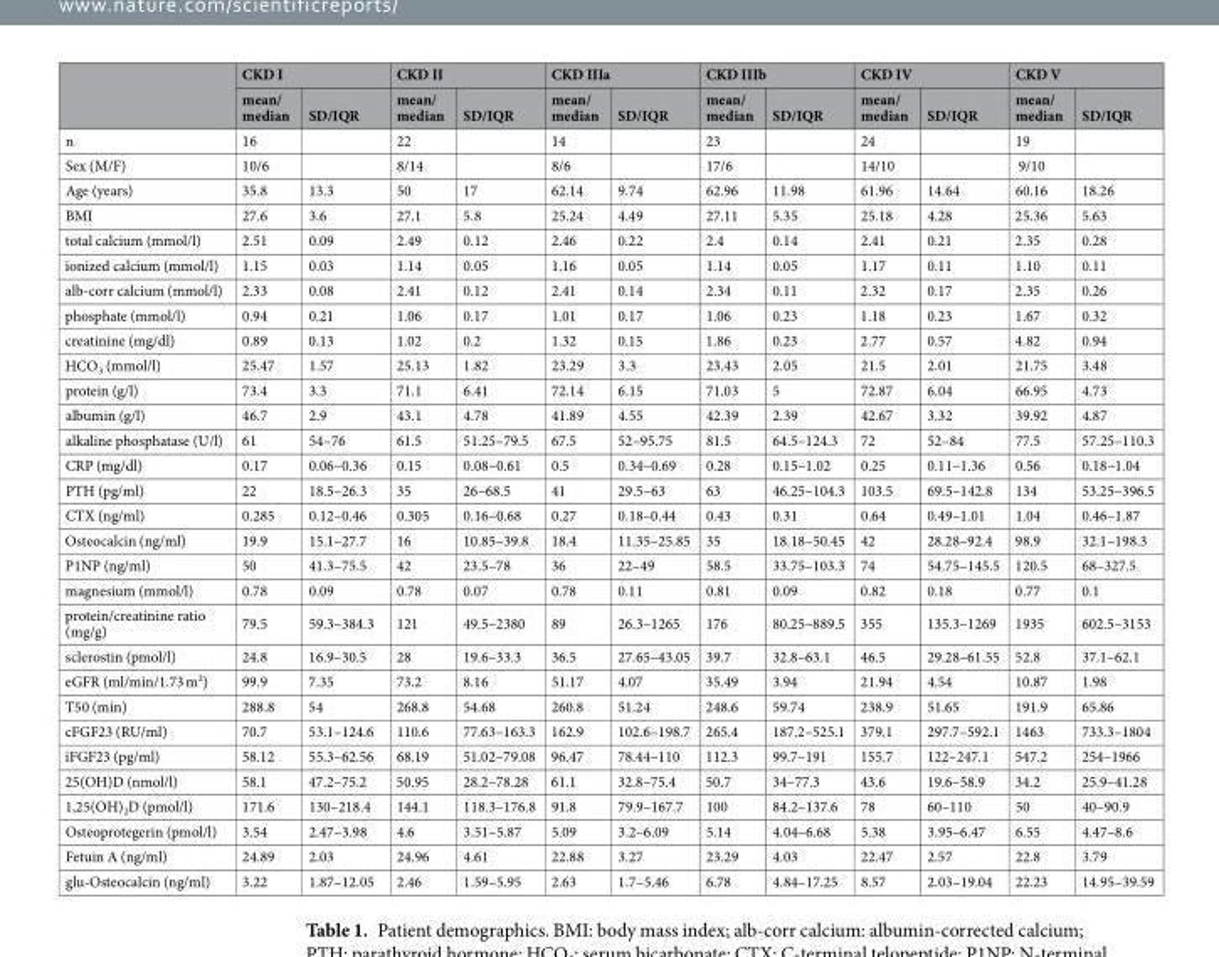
<table><thead><tr><td rowspan="2"></td><td colspan="2">CKD I</td><td colspan="2">CKD II</td><td colspan="2">CKD IIIa</td><td colspan="2">CKD IIIb</td><td colspan="2">CKD IV</td><td colspan="2">CKD V</td></tr><tr><td>mean/ median</td><td>SD/IQR</td><td>mean/ median</td><td>SD/IQR</td><td>mean/ median</td><td>SD/IQR</td><td>mean/ median</td><td>SD/IQR</td><td>mean/ median</td><td>SD/IQR</td><td>mean/ median</td><td>SD/IQR</td></tr></thead><tbody><tr><td>n</td><td>16</td><td></td><td>22</td><td></td><td>14</td><td></td><td>23</td><td></td><td>24</td><td></td><td>19</td><td></td></tr><tr><td>Sex (M/F)</td><td>10/6</td><td></td><td>8/14</td><td></td><td>8/6</td><td></td><td>17/6</td><td></td><td>14/10</td><td></td><td>9/10</td><td></td></tr><tr><td>Age (years)</td><td>35.8</td><td>13.3</td><td>50</td><td>17</td><td>62.14</td><td>9.74</td><td>62.96</td><td>11.98</td><td>61.96</td><td>14.64</td><td>60.16</td><td>18.26</td></tr><tr><td>BMI</td><td>27.6</td><td>3.6</td><td>27.1</td><td>5.8</td><td>25.24</td><td>4.49</td><td>27.11</td><td>5.35</td><td>25.18</td><td>4.28</td><td>25.36</td><td>5.63</td></tr><tr><td>total calcium (mmol/l)</td><td>2.51</td><td>0.09</td><td>2.49</td><td>0.12</td><td>2.46</td><td>0.22</td><td>2.4</td><td>0.14</td><td>2.41</td><td>0.21</td><td>2.35</td><td>0.28</td></tr><tr><td>ionized calcium (mmol/l)</td><td>1.15</td><td>0.03</td><td>1.14</td><td>0.05</td><td>1.16</td><td>0.05</td><td>1.14</td><td>0.05</td><td>1.17</td><td>0.11</td><td>1.10</td><td>0.11</td></tr><tr><td>alb-corr calcium (mmol/l)</td><td>2.33</td><td>0.08</td><td>2.41</td><td>0.12</td><td>2.41</td><td>0.14</td><td>2.34</td><td>0.11</td><td>2.32</td><td>0.17</td><td>2.35</td><td>0.26</td></tr><tr><td>phosphate (mmol/l)</td><td>0.94</td><td>0.21</td><td>1.06</td><td>0.17</td><td>1.01</td><td>0.17</td><td>1.06</td><td>0.23</td><td>1.18</td><td>0.23</td><td>1.67</td><td>0.32</td></tr><tr><td>creatinine (mg/dl)</td><td>0.89</td><td>0.13</td><td>1.02</td><td>0.2</td><td>1.32</td><td>0.15</td><td>1.86</td><td>0.23</td><td>2.77</td><td>0.57</td><td>4.82</td><td>0.94</td></tr><tr><td>HCO<sub>3</sub> (mmol/l)</td><td>25.47</td><td>1.57</td><td>25.13</td><td>1.82</td><td>23.29</td><td>3.3</td><td>23.43</td><td>2.05</td><td>21.5</td><td>2.01</td><td>21.75</td><td>3.48</td></tr><tr><td>protein (g/l)</td><td>73.4</td><td>3.3</td><td>71.1</td><td>6.41</td><td>72.14</td><td>6.15</td><td>71.03</td><td>5</td><td>72.87</td><td>6.04</td><td>66.95</td><td>4.73</td></tr><tr><td>albumin (g/l)</td><td>46.7</td><td>2.9</td><td>43.1</td><td>4.78</td><td>41.89</td><td>4.55</td><td>42.39</td><td>2.39</td><td>42.67</td><td>3.32</td><td>39.92</td><td>4.87</td></tr><tr><td>alkaline phosphatase (U/l)</td><td>61</td><td>54–76</td><td>61.5</td><td>51.25–79.5</td><td>67.5</td><td>52–95.75</td><td>81.5</td><td>64.5–124.3</td><td>72</td><td>52–84</td><td>77.5</td><td>57.25–110.3</td></tr><tr><td>CRP (mg/dl)</td><td>0.17</td><td>0.06–0.36</td><td>0.15</td><td>0.08–0.61</td><td>0.5</td><td>0.34–0.69</td><td>0.28</td><td>0.15–1.02</td><td>0.25</td><td>0.11–1.36</td><td>0.56</td><td>0.18–1.04</td></tr><tr><td>PTH (pg/ml)</td><td>22</td><td>18.5–26.3</td><td>35</td><td>26–68.5</td><td>41</td><td>29.5–63</td><td>63</td><td>46.25–104.3</td><td>103.5</td><td>69.5–142.8</td><td>134</td><td>53.25–396.5</td></tr><tr><td>CTX (ng/ml)</td><td>0.285</td><td>0.12–0.46</td><td>0.305</td><td>0.16–0.68</td><td>0.27</td><td>0.18–0.44</td><td>0.43</td><td>0.31</td><td>0.64</td><td>0.49–1.01</td><td>1.04</td><td>0.46–1.87</td></tr><tr><td>Osteocalcin (ng/ml)</td><td>19.9</td><td>15.1–27.7</td><td>16</td><td>10.85–39.8</td><td>18.4</td><td>11.35–25.85</td><td>35</td><td>18.18–50.45</td><td>42</td><td>28.28–92.4</td><td>98.9</td><td>32.1–198.3</td></tr><tr><td>P1NP (ng/ml)</td><td>50</td><td>41.3–75.5</td><td>42</td><td>23.5–78</td><td>36</td><td>22–49</td><td>58.5</td><td>33.75–103.3</td><td>74</td><td>54.75–145.5</td><td>120.5</td><td>68–327.5</td></tr><tr><td>magnesium (mmol/l)</td><td>0.78</td><td>0.09</td><td>0.78</td><td>0.07</td><td>0.78</td><td>0.11</td><td>0.81</td><td>0.09</td><td>0.82</td><td>0.18</td><td>0.77</td><td>0.1</td></tr><tr><td>protein/creatinine ratio (mg/g)</td><td>79.5</td><td>59.3–384.3</td><td>121</td><td>49.5–2380</td><td>89</td><td>26.3–1265</td><td>176</td><td>80.25–889.5</td><td>355</td><td>135.3–1269</td><td>1935</td><td>602.5–3153</td></tr><tr><td>sclerostin (pmol/l)</td><td>24.8</td><td>16.9–30.5</td><td>28</td><td>19.6–33.3</td><td>36.5</td><td>27.65–43.05</td><td>39.7</td><td>32.8–63.1</td><td>46.5</td><td>29.28–61.55</td><td>52.8</td><td>37.1–62.1</td></tr><tr><td>eGFR (ml/min/1.73 m²)</td><td>99.9</td><td>7.35</td><td>73.2</td><td>8.16</td><td>51.17</td><td>4.07</td><td>35.49</td><td>3.94</td><td>21.94</td><td>4.54</td><td>10.87</td><td>1.98</td></tr><tr><td>T50 (min)</td><td>288.8</td><td>54</td><td>268.8</td><td>54.68</td><td>260.8</td><td>51.24</td><td>248.6</td><td>59.74</td><td>238.9</td><td>51.65</td><td>191.9</td><td>65.86</td></tr><tr><td>cFGF23 (RU/ml)</td><td>70.7</td><td>53.1–124.6</td><td>110.6</td><td>77.63–163.3</td><td>162.9</td><td>102.6–198.7</td><td>265.4</td><td>187.2–525.1</td><td>379.1</td><td>297.7–592.1</td><td>1463</td><td>733.3–1804</td></tr><tr><td>iFGF23 (pg/ml)</td><td>58.12</td><td>55.3–62.56</td><td>68.19</td><td>51.02–79.08</td><td>96.47</td><td>78.44–110</td><td>112.3</td><td>99.7–191</td><td>155.7</td><td>122–247.1</td><td>547.2</td><td>254–1966</td></tr><tr><td>25(OH)D (nmol/l)</td><td>58.1</td><td>47.2–75.2</td><td>50.95</td><td>28.2–78.28</td><td>61.1</td><td>32.8–75.4</td><td>50.7</td><td>34–77.3</td><td>43.6</td><td>19.6–58.9</td><td>34.2</td><td>25.9–41.28</td></tr><tr><td>1,25(OH)<sub>2</sub>D (pmol/l)</td><td>171.6</td><td>130–218.4</td><td>144.1</td><td>118.3–176.8</td><td>91.8</td><td>79.9–167.7</td><td>100</td><td>84.2–137.6</td><td>78</td><td>60–110</td><td>50</td><td>40–90.9</td></tr><tr><td>Osteoprotegerin (pmol/l)</td><td>3.54</td><td>2.47–3.98</td><td>4.6</td><td>3.51–5.87</td><td>5.09</td><td>3.2–6.09</td><td>5.14</td><td>4.04–6.68</td><td>5.38</td><td>3.95–6.47</td><td>6.55</td><td>4.47–8.6</td></tr><tr><td>Fetuin A (ng/ml)</td><td>24.89</td><td>2.03</td><td>24.96</td><td>4.61</td><td>22.88</td><td>3.27</td><td>23.29</td><td>4.03</td><td>22.47</td><td>2.57</td><td>22.8</td><td>3.79</td></tr><tr><td>glu-Osteocalcin (ng/ml)</td><td>3.22</td><td>1.87–12.05</td><td>2.46</td><td>1.59–5.95</td><td>2.63</td><td>1.7–5.46</td><td>6.78</td><td>4.84–17.25</td><td>8.57</td><td>2.03–19.04</td><td>22.23</td><td>14.95–39.59</td></tr></tbody></table>